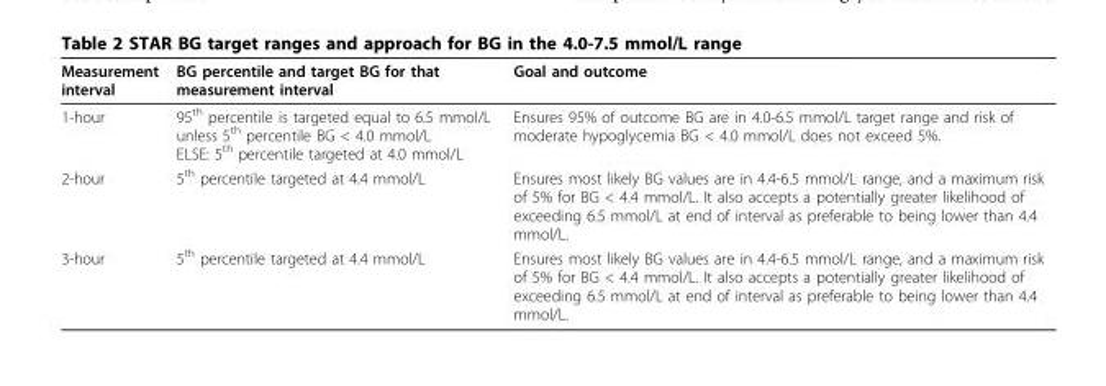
<table><thead><tr><td>Measurement interval</td><td>BG percentile and target BG for that measurement interval</td><td>Goal and outcome</td></tr></thead><tbody><tr><td>1-hour</td><td>95<sup>th</sup> percentile is targeted equal to 6.5 mmol/L unless 5<sup>th</sup> percentile BG &lt; 4.0 mmol/L ELSE: 5<sup>th</sup> percentile targeted at 4.0 mmol/L</td><td>Ensures 95% of outcome BG are in 4.0-6.5 mmol/L target range and risk of moderate hypoglycemia BG &lt; 4.0 mmol/L does not exceed 5%.</td></tr><tr><td>2-hour</td><td>5<sup>th</sup> percentile targeted at 4.4 mmol/L</td><td>Ensures most likely BG values are in 4.4-6.5 mmol/L range, and a maximum risk of 5% for BG &lt; 4.4 mmol/L. It also accepts a potentially greater likelihood of exceeding 6.5 mmol/L at end of interval as preferable to being lower than 4.4 mmol/L.</td></tr><tr><td>3-hour</td><td>5<sup>th</sup> percentile targeted at 4.4 mmol/L</td><td>Ensures most likely BG values are in 4.4-6.5 mmol/L range, and a maximum risk of 5% for BG &lt; 4.4 mmol/L. It also accepts a potentially greater likelihood of exceeding 6.5 mmol/L at end of interval as preferable to being lower than 4.4 mmol/L.</td></tr></tbody></table>